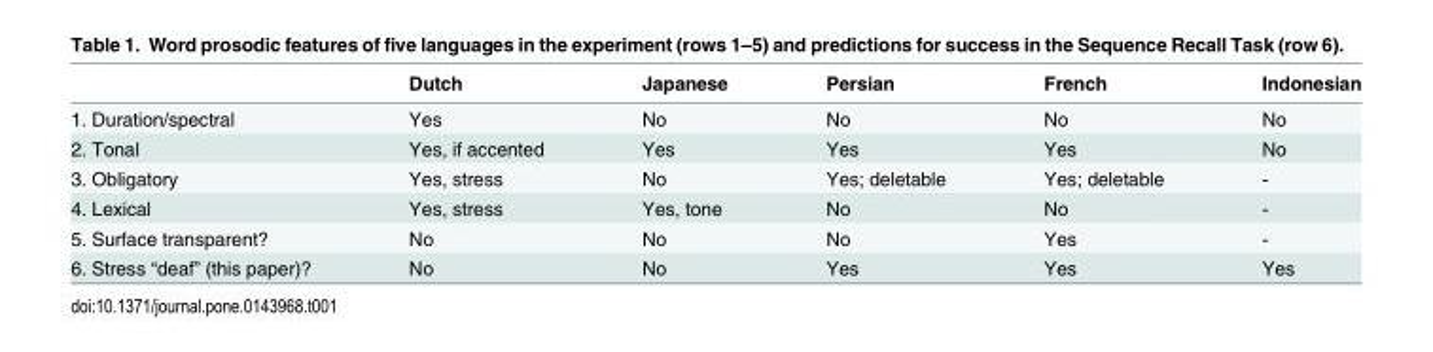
<table><thead><tr><td></td><td>Dutch</td><td>Japanese</td><td>Persian</td><td>French</td><td>Indonesian</td></tr></thead><tbody><tr><td>1. Duration/spectral</td><td>Yes</td><td>No</td><td>No</td><td>No</td><td>No</td></tr><tr><td>2. Tonal</td><td>Yes, if accented</td><td>Yes</td><td>Yes</td><td>Yes</td><td>No</td></tr><tr><td>3. Obligatory</td><td>Yes, stress</td><td>No</td><td>Yes; deletable</td><td>Yes; deletable</td><td>-</td></tr><tr><td>4. Lexical</td><td>Yes, stress</td><td>Yes, tone</td><td>No</td><td>No</td><td>-</td></tr><tr><td>5. Surface transparent?</td><td>No</td><td>No</td><td>No</td><td>Yes</td><td>-</td></tr><tr><td>6. Stress “deaf” (this paper)?</td><td>No</td><td>No</td><td>Yes</td><td>Yes</td><td>Yes</td></tr></tbody></table>